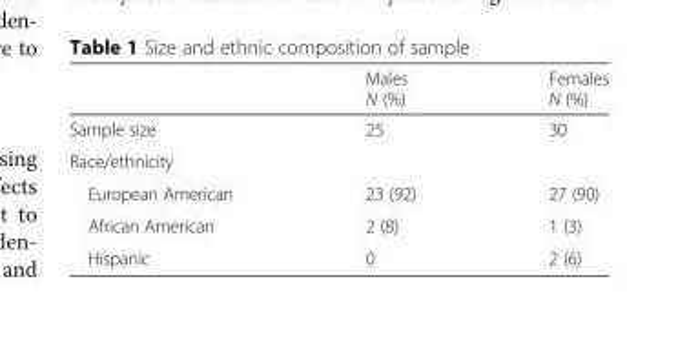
<table><thead><tr><td></td><td>Males N (%)</td><td>Females N (%)</td></tr></thead><tbody><tr><td>Sample size</td><td>25</td><td>30</td></tr><tr><td colspan="3">Race/ethnicity</td></tr><tr><td>European American</td><td>23 (92)</td><td>27 (90)</td></tr><tr><td>African American</td><td>2 (8)</td><td>1 (3)</td></tr><tr><td>Hispanic</td><td>0</td><td>2 (6)</td></tr></tbody></table>